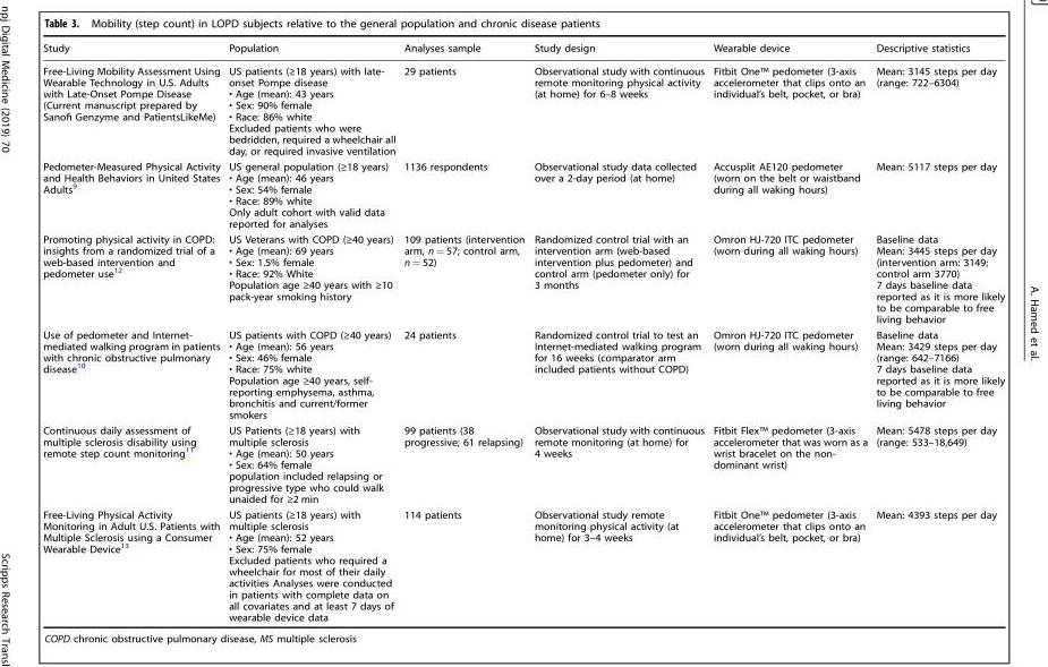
<table><thead><tr><td>Study</td><td>Population</td><td>Analyses sample</td><td>Study design</td><td>Wearable device</td><td>Descriptive statistics</td></tr></thead><tbody><tr><td>Free-Living Mobility Assessment Using Wearable Technology in U.S. Adults with Late-Onset Pompe Disease (Current manuscript prepared by Sanofi Genzyme and PatientsLikeMe)</td><td>US patients (≥18 years) with late- onset Pompe disease • Age (mean): 43 years • Sex: 90% female • Race: 86% white Excluded patients who were bedridden, required a wheelchair all day, or required invasive ventilation</td><td>29 patients</td><td>Observational study with continuous remote monitoring physical activity (at home) for 6–8 weeks</td><td>Fitbit One™ pedometer (3-axis accelerometer that clips onto an individual’s belt, pocket, or bra)</td><td>Mean: 3145 steps per day (range: 722–6304)</td></tr><tr><td>Pedometer-Measured Physical Activity and Health Behaviors in United States Adults<sup>9</sup></td><td>US general population (≥18 years) • Age (mean): 46 years • Sex: 54% female • Race: 89% white Only adult cohort with valid data reported for analyses</td><td>1136 respondents</td><td>Observational study data collected over a 2-day period (at home)</td><td>Accusplit AE120 pedometer (worn on the belt or waistband during all waking hours)</td><td>Mean: 5117 steps per day</td></tr><tr><td>Promoting physical activity in COPD: insights from a randomized trial of a web-based intervention and pedometer use<sup>12</sup></td><td>US Veterans with COPD (≥40 years) • Age (mean): 69 years • Sex: 1.5% female • Race: 92% White Population age ≥40 years with ≥10 pack-year smoking history</td><td>109 patients (intervention arm, n = 57; control arm, n = 52)</td><td>Randomized control trial with an intervention arm (web-based intervention plus pedometer) and control arm (pedometer only) for 3 months</td><td>Omron HJ-720 ITC pedometer (worn during all waking hours)</td><td>Baseline data Mean: 3445 steps per day (intervention arm: 3149; control arm 3770) 7 days baseline data reported as it is more likely to be comparable to free living behavior</td></tr><tr><td>Use of pedometer and Internet- mediated walking program in patients with chronic obstructive pulmonary disease<sup>10</sup></td><td>US patients with COPD (≥40 years) • Age (mean): 56 years • Sex: 46% female • Race: 75% white Population age ≥40 years, self- reporting emphysema, asthma, bronchitis and current/former smokers</td><td>24 patients</td><td>Randomized control trial to test an Internet-mediated walking program for 16 weeks (comparator arm included patients without COPD)</td><td>Omron HJ-720 ITC pedometer (worn during all waking hours)</td><td>Baseline data Mean: 3429 steps per day (range: 642–7166) 7 days baseline data reported as it is more likely to be comparable to free living behavior</td></tr><tr><td>Continuous daily assessment of multiple sclerosis disability using remote step count monitoring<sup>11</sup></td><td>US Patients (≥18 years) with multiple sclerosis • Age (mean): 50 years • Sex: 64% female population included relapsing or progressive type who could walk unaided for ≥2 min</td><td>99 patients (38 progressive; 61 relapsing)</td><td>Observational study with continuous remote monitoring (at home) for 4 weeks</td><td>Fitbit Flex™ pedometer (3-axis accelerometer that was worn as a wrist bracelet on the non- dominant wrist)</td><td>Mean: 5478 steps per day (range: 533–18,649)</td></tr><tr><td>Free-Living Physical Activity Monitoring in Adult U.S. Patients with Multiple Sclerosis using a Consumer Wearable Device<sup>13</sup></td><td>US patients (≥18 years) with multiple sclerosis • Age (mean): 52 years • Sex: 75% female Excluded patients who required a wheelchair for most of their daily activities Analyses were conducted in patients with complete data on all covariates and at least 7 days of wearable device data</td><td>114 patients</td><td>Observational study remote monitoring physical activity (at home) for 3–4 weeks</td><td>Fitbit One™ pedometer (3-axis accelerometer that clips onto an individual’s belt, pocket, or bra)</td><td>Mean: 4393 steps per day</td></tr></tbody></table>